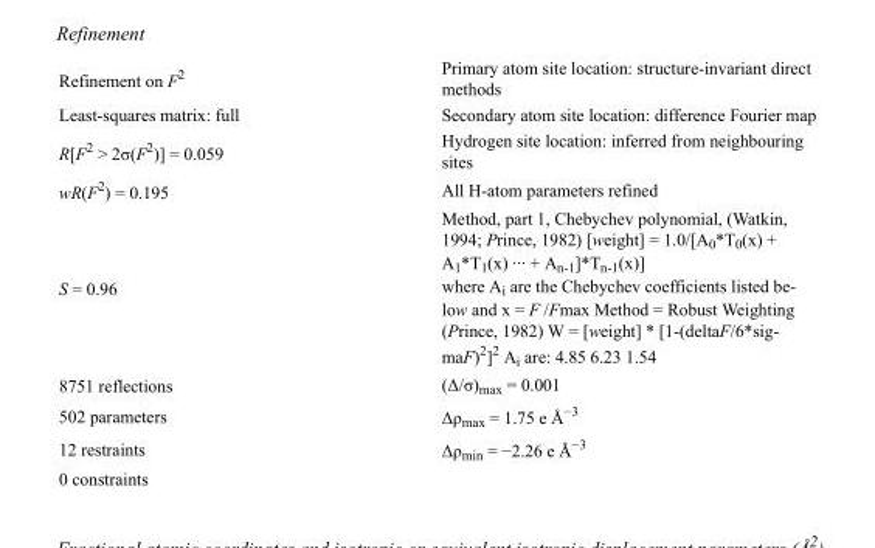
<table><tbody><tr><td>Refinement on F<sup>2</sup></td><td>Primary atom site location: structure-invariant direct methods</td></tr><tr><td>Least-squares matrix: full</td><td>Secondary atom site location: difference Fourier map</td></tr><tr><td>R[F<sup>2</sup> &gt; 2σ(F<sup>2</sup>)] = 0.059</td><td>Hydrogen site location: inferred from neighbouring sites</td></tr><tr><td>wR(F<sup>2</sup>) = 0.195</td><td>All H-atom parameters refined</td></tr><tr><td>S = 0.96</td><td>Method, part 1, Chebychev polynomial, (Watkin, 1994; Prince, 1982) [weight] = 1.0/[A0*T0(x) + A1*T1(x) ··· + An-1]*Tn-1(x)] where Ai are the Chebychev coefficients listed be- low and x = F /Fmax Method = Robust Weighting (Prince, 1982) W = [weight] * [1-(deltaF/6*sig- maF)2]2 Ai are: 4.85 6.23 1.54</td></tr><tr><td>8751 reflections</td><td>(Δ/σ)<sub>max</sub> = 0.001</td></tr><tr><td>502 parameters</td><td>Δρ<sub>max</sub> = 1.75 e Å<sup>−3</sup></td></tr><tr><td>12 restraints</td><td>Δρ<sub>min</sub> = −2.26 e Å<sup>−3</sup></td></tr><tr><td>0 constraints</td><td></td></tr></tbody></table>